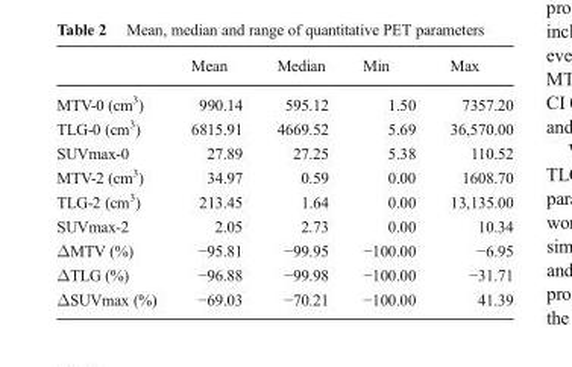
<table><thead><tr><td></td><td>Mean</td><td>Median</td><td>Min</td><td>Max</td></tr></thead><tbody><tr><td>MTV-0 (cm<sup>3</sup>)</td><td>990.14</td><td>595.12</td><td>1.50</td><td>7357.20</td></tr><tr><td>TLG-0 (cm<sup>3</sup>)</td><td>6815.91</td><td>4669.52</td><td>5.69</td><td>36,570.00</td></tr><tr><td>SUVmax-0</td><td>27.89</td><td>27.25</td><td>5.38</td><td>110.52</td></tr><tr><td>MTV-2 (cm<sup>3</sup>)</td><td>34.97</td><td>0.59</td><td>0.00</td><td>1608.70</td></tr><tr><td>TLG-2 (cm<sup>3</sup>)</td><td>213.45</td><td>1.64</td><td>0.00</td><td>13,135.00</td></tr><tr><td>SUVmax-2</td><td>2.05</td><td>2.73</td><td>0.00</td><td>10.34</td></tr><tr><td>ΔMTV (%)</td><td>−95.81</td><td>−99.95</td><td>−100.00</td><td>−6.95</td></tr><tr><td>ΔTLG (%)</td><td>−96.88</td><td>−99.98</td><td>−100.00</td><td>−31.71</td></tr><tr><td>ΔSUVmax (%)</td><td>−69.03</td><td>−70.21</td><td>−100.00</td><td>41.39</td></tr></tbody></table>